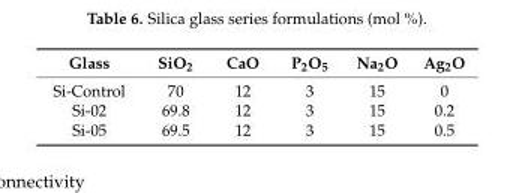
<table><thead><tr><td>Glass</td><td>SiO<sub>2</sub></td><td>CaO</td><td>P<sub>2</sub>O<sub>5</sub></td><td>Na<sub>2</sub>O</td><td>Ag<sub>2</sub>O</td></tr></thead><tbody><tr><td>Si-Control</td><td>70</td><td>12</td><td>3</td><td>15</td><td>0</td></tr><tr><td>Si-02</td><td>69.8</td><td>12</td><td>3</td><td>15</td><td>0.2</td></tr><tr><td>Si-05</td><td>69.5</td><td>12</td><td>3</td><td>15</td><td>0.5</td></tr></tbody></table>